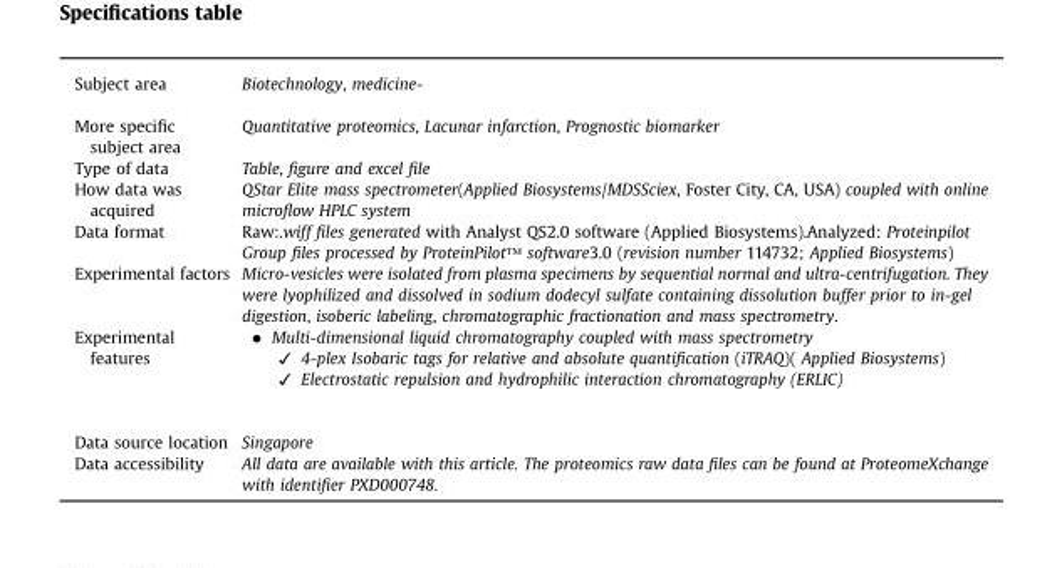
<table><tbody><tr><td>Subject area</td><td>Biotechnology, medicine-</td></tr><tr><td>More specific subject area</td><td>Quantitative proteomics, Lacunar infarction, Prognostic biomarker</td></tr><tr><td>Type of data</td><td>Table, figure and excel file</td></tr><tr><td>How data was acquired</td><td>QStar Elite mass spectrometer(Applied Biosystems/MDSSciex, Foster City, CA, USA) coupled with online microflow HPLC system</td></tr><tr><td>Data format</td><td>Raw:.wiff files generated with Analyst QS2.0 software (Applied Biosystems).Analyzed: Proteinpilot Group files processed by ProteinPilot™ software3.0 (revision number 114732; Applied Biosystems)</td></tr><tr><td>Experimental factors</td><td>Micro-vesicles were isolated from plasma specimens by sequential normal and ultra-centrifugation. They were lyophilized and dissolved in sodium dodecyl sulfate containing dissolution buffer prior to in-gel digestion, isoberic labeling, chromatographic fractionation and mass spectrometry.</td></tr><tr><td>Experimental features</td><td>• Multi-dimensional liquid chromatography coupled with mass spectrometry ✓ 4-plex Isobaric tags for relative and absolute quantification (iTRAQ)( Applied Biosystems) ✓ Electrostatic repulsion and hydrophilic interaction chromatography (ERLIC)</td></tr><tr><td>Data source location</td><td>Singapore</td></tr><tr><td>Data accessibility</td><td>All data are available with this article. The proteomics raw data files can be found at ProteomeXchange with identifier PXD000748.</td></tr></tbody></table>